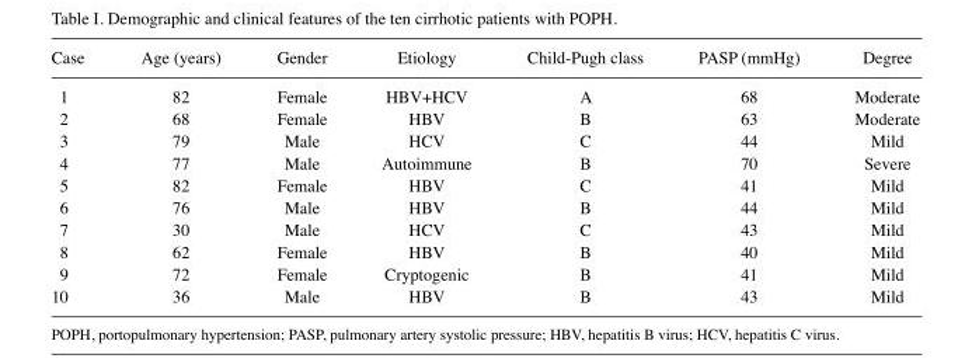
<table><thead><tr><td>Case</td><td>Age (years)</td><td>Gender</td><td>Etiology</td><td>Child-Pugh class</td><td>PASP (mmHg)</td><td>Degree</td></tr></thead><tbody><tr><td>1</td><td>82</td><td>Female</td><td>HBV+HCV</td><td>A</td><td>68</td><td>Moderate</td></tr><tr><td>2</td><td>68</td><td>Female</td><td>HBV</td><td>B</td><td>63</td><td>Moderate</td></tr><tr><td>3</td><td>79</td><td>Male</td><td>HCV</td><td>C</td><td>44</td><td>Mild</td></tr><tr><td>4</td><td>77</td><td>Male</td><td>Autoimmune</td><td>B</td><td>70</td><td>Severe</td></tr><tr><td>5</td><td>82</td><td>Female</td><td>HBV</td><td>C</td><td>41</td><td>Mild</td></tr><tr><td>6</td><td>76</td><td>Male</td><td>HBV</td><td>B</td><td>44</td><td>Mild</td></tr><tr><td>7</td><td>30</td><td>Male</td><td>HCV</td><td>C</td><td>43</td><td>Mild</td></tr><tr><td>8</td><td>62</td><td>Female</td><td>HBV</td><td>B</td><td>40</td><td>Mild</td></tr><tr><td>9</td><td>72</td><td>Female</td><td>Cryptogenic</td><td>B</td><td>41</td><td>Mild</td></tr><tr><td>10</td><td>36</td><td>Male</td><td>HBV</td><td>B</td><td>43</td><td>Mild</td></tr></tbody></table>